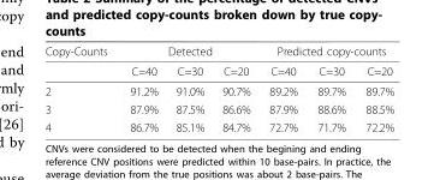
<table><thead><tr><td rowspan="2">Copy-Counts</td><td colspan="3">Detected</td><td colspan="3">Predicted copy-counts</td></tr><tr><td>C=40</td><td>C=30</td><td>C=20</td><td>C=40</td><td>C=30</td><td>C=20</td></tr></thead><tbody><tr><td>2</td><td>91.2%</td><td>91.0%</td><td>90.7%</td><td>89.2%</td><td>89.7%</td><td>89.7%</td></tr><tr><td>3</td><td>87.9%</td><td>87.5%</td><td>86.6%</td><td>87.9%</td><td>88.6%</td><td>88.5%</td></tr><tr><td>4</td><td>86.7%</td><td>85.1%</td><td>84.7%</td><td>72.7%</td><td>71.7%</td><td>72.2%</td></tr></tbody></table>